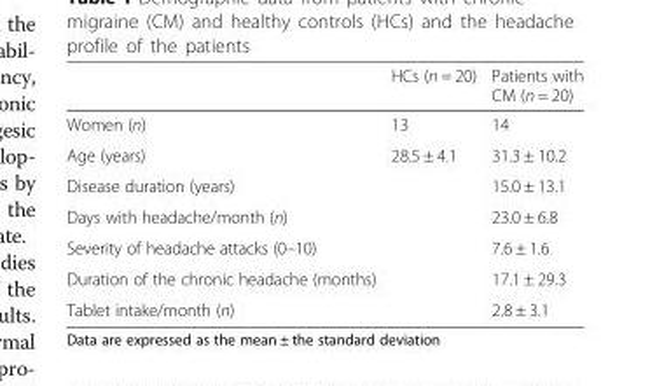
<table><thead><tr><td></td><td>HCs (n = 20)</td><td>Patients with CM (n = 20)</td></tr></thead><tbody><tr><td>Women (n)</td><td>13</td><td>14</td></tr><tr><td>Age (years)</td><td>28.5 ± 4.1</td><td>31.3 ± 10.2</td></tr><tr><td>Disease duration (years)</td><td></td><td>15.0 ± 13.1</td></tr><tr><td>Days with headache/month (n)</td><td></td><td>23.0 ± 6.8</td></tr><tr><td>Severity of headache attacks (0–10)</td><td></td><td>7.6 ± 1.6</td></tr><tr><td>Duration of the chronic headache (months)</td><td></td><td>17.1 ± 29.3</td></tr><tr><td>Tablet intake/month (n)</td><td></td><td>2.8 ± 3.1</td></tr></tbody></table>